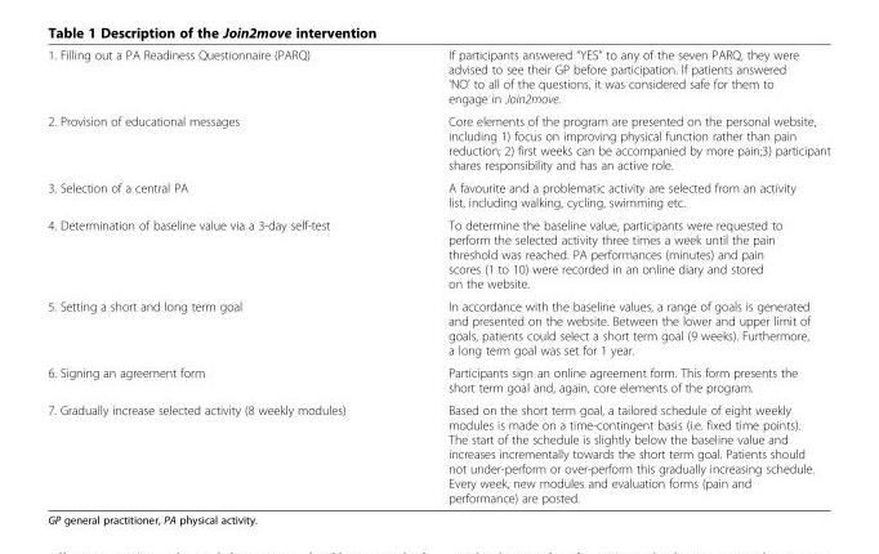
<table><tbody><tr><td>1. Filling out a PA Readiness Questionnaire (PARQ)</td><td>If participants answered “YES” to any of the seven PARQ, they were advised to see their GP before participation. If patients answered ‘NO’ to all of the questions, it was considered safe for them to engage in Join2move.</td></tr><tr><td>2. Provision of educational messages</td><td>Core elements of the program are presented on the personal website, including 1) focus on improving physical function rather than pain reduction; 2) first weeks can be accompanied by more pain;3) participant shares responsibility and has an active role.</td></tr><tr><td>3. Selection of a central PA</td><td>A favourite and a problematic activity are selected from an activity list, including walking, cycling, swimming etc.</td></tr><tr><td>4. Determination of baseline value via a 3-day self-test</td><td>To determine the baseline value, participants were requested to perform the selected activity three times a week until the pain threshold was reached. PA performances (minutes) and pain scores (1 to 10) were recorded in an online diary and stored on the website.</td></tr><tr><td>5. Setting a short and long term goal</td><td>In accordance with the baseline values, a range of goals is generated and presented on the website. Between the lower and upper limit of goals, patients could select a short term goal (9 weeks). Furthermore, a long term goal was set for 1 year.</td></tr><tr><td>6. Signing an agreement form</td><td>Participants sign an online agreement form. This form presents the short term goal and, again, core elements of the program.</td></tr><tr><td>7. Gradually increase selected activity (8 weekly modules)</td><td>Based on the short term goal, a tailored schedule of eight weekly modules is made on a time-contingent basis (i.e. fixed time points). The start of the schedule is slightly below the baseline value and increases incrementally towards the short term goal. Patients should not under-perform or over-perform this gradually increasing schedule. Every week, new modules and evaluation forms (pain and performance) are posted.</td></tr></tbody></table>